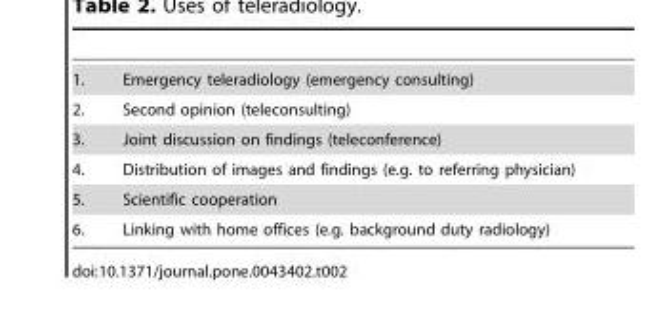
<table><tbody><tr><td>1.</td><td>Emergency teleradiology (emergency consulting)</td></tr><tr><td>2.</td><td>Second opinion (teleconsulting)</td></tr><tr><td>3.</td><td>Joint discussion on findings (teleconference)</td></tr><tr><td>4.</td><td>Distribution of images and findings (e.g. to referring physician)</td></tr><tr><td>5.</td><td>Scientific cooperation</td></tr><tr><td>6.</td><td>Linking with home offices (e.g. background duty radiology)</td></tr></tbody></table>